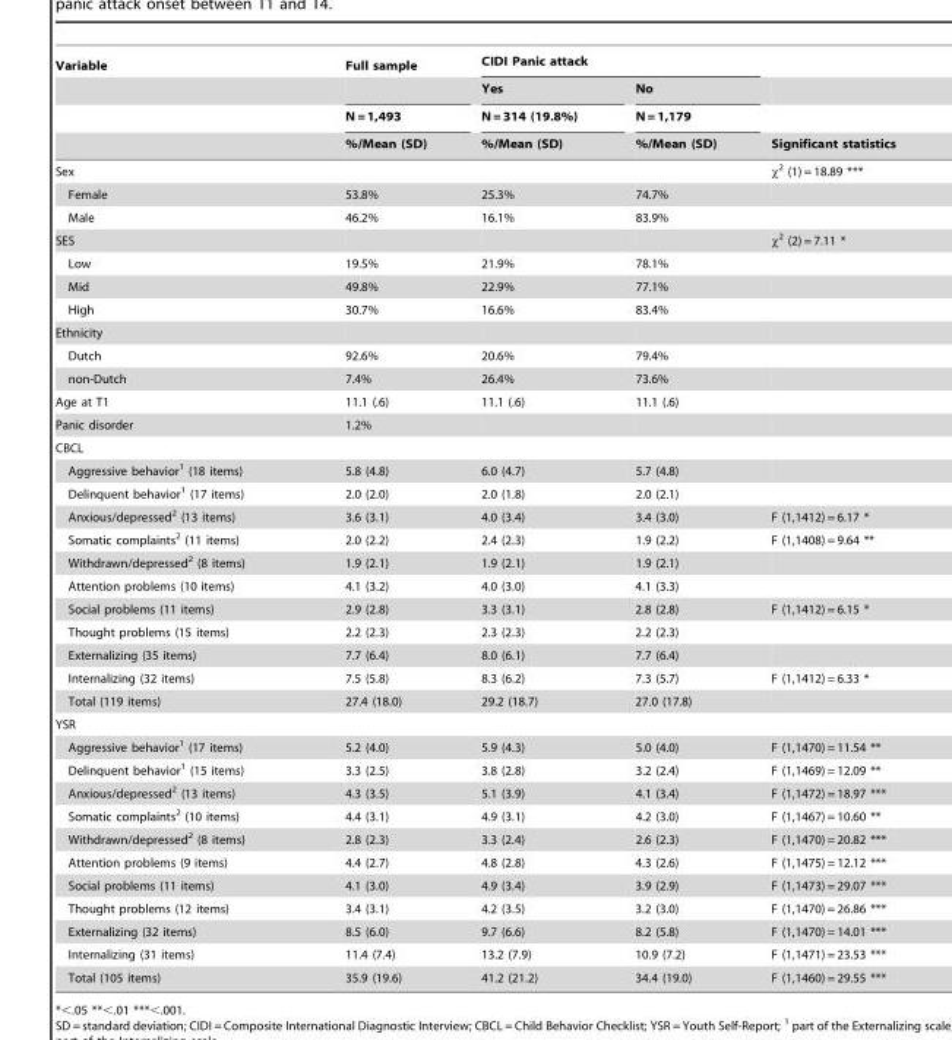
<table><thead><tr><td rowspan="4">Variable</td><td rowspan="4">Full sample N = 1,493 %/Mean (SD)</td><td colspan="2">CIDI Panic attack</td><td rowspan="4">Significant statistics</td></tr><tr><td rowspan="3">Yes N = 314 (19.8%) %/Mean (SD)</td><td rowspan="3">No N = 1,179 %/Mean (SD)</td></tr><tr></tr><tr></tr></thead><tbody><tr><td>Sex</td><td></td><td></td><td></td><td>x2 (1) = 18.89 ***</td></tr><tr><td>Female</td><td>53.8%</td><td>25.3%</td><td>74.7%</td><td></td></tr><tr><td>Male</td><td>46.2%</td><td>16.1%</td><td>83.9%</td><td></td></tr><tr><td>SES</td><td></td><td></td><td></td><td>x2 (2) = 7.11 *</td></tr><tr><td>Low</td><td>19.5%</td><td>21.9%</td><td>78.1%</td><td></td></tr><tr><td>Mid</td><td>49.8%</td><td>22.9%</td><td>77.1%</td><td></td></tr><tr><td>High</td><td>30.7%</td><td>16.6%</td><td>83.4%</td><td></td></tr><tr><td colspan="5">Ethnicity</td></tr><tr><td>Dutch</td><td>92.6%</td><td>20.6%</td><td>79.4%</td><td></td></tr><tr><td>non-Dutch</td><td>7.4%</td><td>26.4%</td><td>73.6%</td><td></td></tr><tr><td>Age at T1</td><td>11.1 (.6)</td><td>11.1 (.6)</td><td>11.1 (.6)</td><td></td></tr><tr><td>Panic disorder</td><td>1.2%</td><td></td><td></td><td></td></tr><tr><td colspan="5">CBCL</td></tr><tr><td>Aggressive behavior<sup>1</sup> (18 items)</td><td>5.8 (4.8)</td><td>6.0 (4.7)</td><td>5.7 (4.8)</td><td></td></tr><tr><td>Delinquent behavior<sup>1</sup> (17 items)</td><td>2.0 (2.0)</td><td>2.0 (1.8)</td><td>2.0 (2.1)</td><td></td></tr><tr><td>Anxious/depressed<sup>2</sup> (13 items)</td><td>3.6 (3.1)</td><td>4.0 (3.4)</td><td>3.4 (3.0)</td><td>F (1,1412) = 6.17 *</td></tr><tr><td>Somatic complaints<sup>2</sup> (11 items)</td><td>2.0 (2.2)</td><td>2.4 (2.3)</td><td>1.9 (2.2)</td><td>F (1,1408) = 9.64 **</td></tr><tr><td>Withdrawn/depressed<sup>2</sup> (8 items)</td><td>1.9 (2.1)</td><td>1.9 (2.1)</td><td>1.9 (2.1)</td><td></td></tr><tr><td>Attention problems (10 items)</td><td>4.1 (3.2)</td><td>4.0 (3.0)</td><td>4.1 (3.3)</td><td></td></tr><tr><td>Social problems (11 items)</td><td>2.9 (2.8)</td><td>3.3 (3.1)</td><td>2.8 (2.8)</td><td>F (1,1412) = 6.15 *</td></tr><tr><td>Thought problems (15 items)</td><td>2.2 (2.3)</td><td>2.3 (2.3)</td><td>2.2 (2.3)</td><td></td></tr><tr><td>Externalizing (35 items)</td><td>7.7 (6.4)</td><td>8.0 (6.1)</td><td>7.7 (6.4)</td><td></td></tr><tr><td>Internalizing (32 items)</td><td>7.5 (5.8)</td><td>8.3 (6.2)</td><td>7.3 (5.7)</td><td>F (1,1412) = 6.33 *</td></tr><tr><td>Total (119 items)</td><td>27.4 (18.0)</td><td>29.2 (18.7)</td><td>27.0 (17.8)</td><td></td></tr><tr><td colspan="5">YSR</td></tr><tr><td>Aggressive behavior<sup>1</sup> (17 items)</td><td>5.2 (4.0)</td><td>5.9 (4.3)</td><td>5.0 (4.0)</td><td>F (1,1470) = 11.54 **</td></tr><tr><td>Delinquent behavior<sup>1</sup> (15 items)</td><td>3.3 (2.5)</td><td>3.8 (2.8)</td><td>3.2 (2.4)</td><td>F (1,1469) = 12.09 **</td></tr><tr><td>Anxious/depressed<sup>2</sup> (13 items)</td><td>4.3 (3.5)</td><td>5.1 (3.9)</td><td>4.1 (3.4)</td><td>F (1,1472) = 18.97 ***</td></tr><tr><td>Somatic complaints<sup>2</sup> (10 items)</td><td>4.4 (3.1)</td><td>4.9 (3.1)</td><td>4.2 (3.0)</td><td>F (1,1467) = 10.60 **</td></tr><tr><td>Withdrawn/depressed<sup>2</sup> (8 items)</td><td>2.8 (2.3)</td><td>3.3 (2.4)</td><td>2.6 (2.3)</td><td>F (1,1470) = 20.82 ***</td></tr><tr><td>Attention problems (9 items)</td><td>4.4 (2.7)</td><td>4.8 (2.8)</td><td>4.3 (2.6)</td><td>F (1,1475) = 12.12 ***</td></tr><tr><td>Social problems (11 items)</td><td>4.1 (3.0)</td><td>4.9 (3.4)</td><td>3.9 (2.9)</td><td>F (1,1473) = 29.07 ***</td></tr><tr><td>Thought problems (12 items)</td><td>3.4 (3.1)</td><td>4.2 (3.5)</td><td>3.2 (3.0)</td><td>F (1,1470) = 26.86 ***</td></tr><tr><td>Externalizing (32 items)</td><td>8.5 (6.0)</td><td>9.7 (6.6)</td><td>8.2 (5.8)</td><td>F (1,1470) = 14.01 ***</td></tr><tr><td>Internalizing (31 items)</td><td>11.4 (7.4)</td><td>13.2 (7.9)</td><td>10.9 (7.2)</td><td>F (1,1471) = 23.53 ***</td></tr><tr><td>Total (105 items)</td><td>35.9 (19.6)</td><td>41.2 (21.2)</td><td>34.4 (19.0)</td><td>F (1,1460) = 29.55 ***</td></tr></tbody></table>